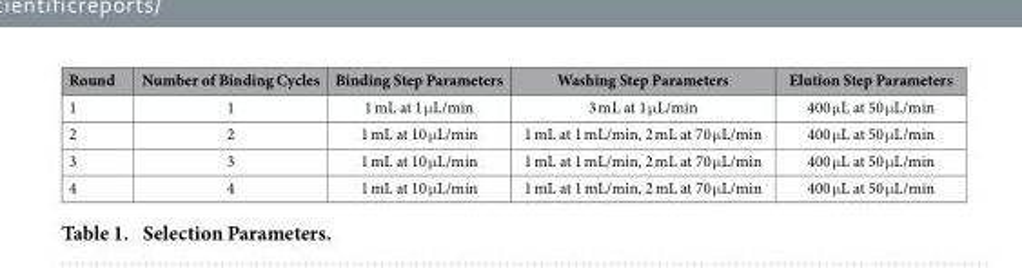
<table><thead><tr><td>Round</td><td>Number of Binding Cycles</td><td>Binding Step Parameters</td><td>Washing Step Parameters</td><td>Elution Step Parameters</td></tr></thead><tbody><tr><td>1</td><td>1</td><td>1 mL at 1 μ L/min</td><td>3 mL at 1 μ L/min</td><td>400 μ L at 50 μ L/min</td></tr><tr><td>2</td><td>2</td><td>1 mL at 10 μ L/min</td><td>1 mL at 1 mL/min, 2 mL at 70 μ L/min</td><td>400 μ L at 50 μ L/min</td></tr><tr><td>3</td><td>3</td><td>1 mL at 10 μ L/min</td><td>1 mL at 1 mL/min, 2 mL at 70 μ L/min</td><td>400 μ L at 50 μ L/min</td></tr><tr><td>4</td><td>4</td><td>1 mL at 10 μ L/min</td><td>1 mL at 1 mL/min, 2 mL at 70 μ L/min</td><td>400 μ L at 50 μ L/min</td></tr></tbody></table>